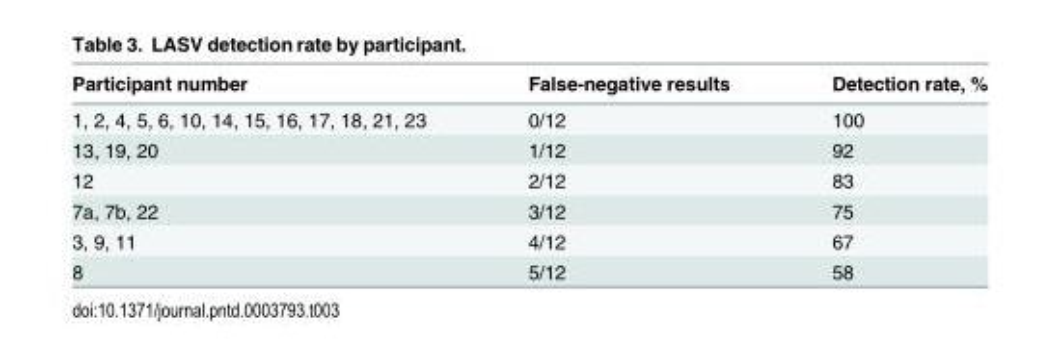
<table><thead><tr><td>Participant number</td><td>False-negative results</td><td>Detection rate, %</td></tr></thead><tbody><tr><td>1, 2, 4, 5, 6, 10, 14, 15, 16, 17, 18, 21, 23</td><td>0/12</td><td>100</td></tr><tr><td>13, 19, 20</td><td>1/12</td><td>92</td></tr><tr><td>12</td><td>2/12</td><td>83</td></tr><tr><td>7a, 7b, 22</td><td>3/12</td><td>75</td></tr><tr><td>3, 9, 11</td><td>4/12</td><td>67</td></tr><tr><td>8</td><td>5/12</td><td>58</td></tr></tbody></table>